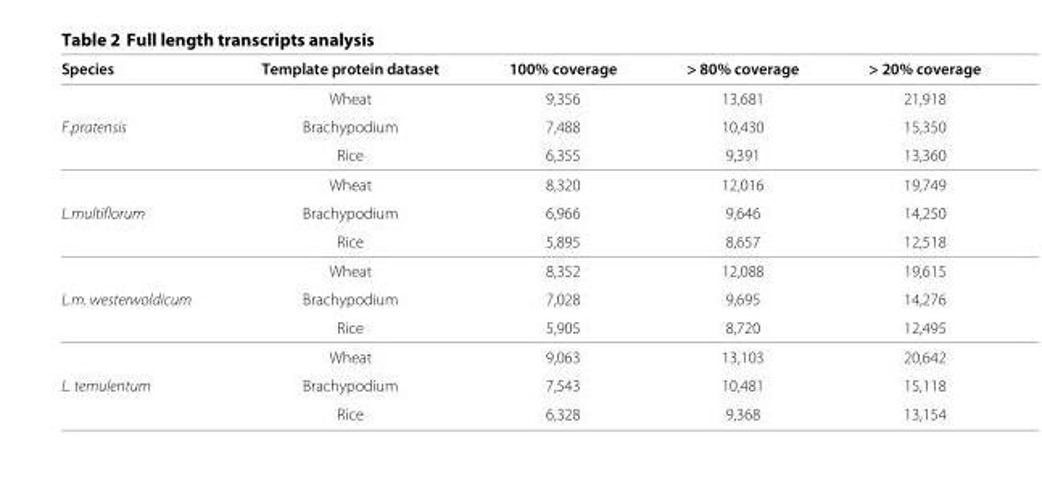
<table><thead><tr><td>Species</td><td>Template protein dataset</td><td>100% coverage</td><td>&gt; 80% coverage</td><td>&gt; 20% coverage</td></tr></thead><tbody><tr><td></td><td>Wheat</td><td>9,356</td><td>13,681</td><td>21,918</td></tr><tr><td rowspan="3">F.pratensis</td><td>Brachypodium</td><td>7,488</td><td>10,430</td><td>15,350</td></tr><tr><td>Rice</td><td>6,355</td><td>9,391</td><td>13,360</td></tr><tr><td>Wheat</td><td>8,320</td><td>12,016</td><td>19,749</td></tr><tr><td rowspan="3">L.multiflorum</td><td>Brachypodium</td><td>6,966</td><td>9,646</td><td>14,250</td></tr><tr><td>Rice</td><td>5,895</td><td>8,657</td><td>12,518</td></tr><tr><td>Wheat</td><td>8,352</td><td>12,088</td><td>19,615</td></tr><tr><td rowspan="3">L.m. westerwoldicum</td><td>Brachypodium</td><td>7,028</td><td>9,695</td><td>14,276</td></tr><tr><td>Rice</td><td>5,905</td><td>8,720</td><td>12,495</td></tr><tr><td>Wheat</td><td>9,063</td><td>13,103</td><td>20,642</td></tr><tr><td rowspan="2">L. temulentum</td><td>Brachypodium</td><td>7,543</td><td>10,481</td><td>15,118</td></tr><tr><td>Rice</td><td>6,328</td><td>9,368</td><td>13,154</td></tr></tbody></table>